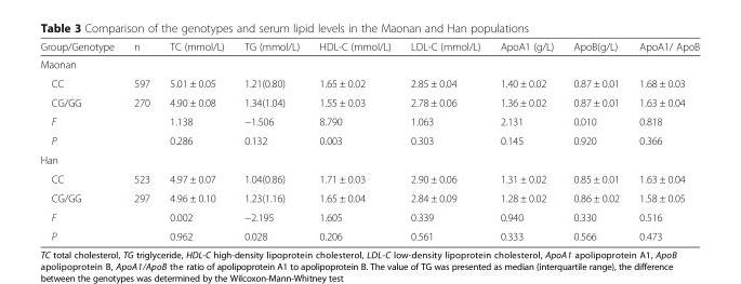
<table><thead><tr><td>Group/Genotype</td><td>n</td><td>TC (mmol/L)</td><td>TG (mmol/L)</td><td>HDL-C (mmol/L)</td><td>LDL-C (mmol/L)</td><td>ApoA1 (g/L)</td><td>ApoB(g/L)</td><td>ApoA1/ ApoB</td></tr></thead><tbody><tr><td colspan="9">Maonan</td></tr><tr><td>CC</td><td>597</td><td>5.01 ± 0.05</td><td>1.21(0.80)</td><td>1.65 ± 0.02</td><td>2.85 ± 0.04</td><td>1.40 ± 0.02</td><td>0.87 ± 0.01</td><td>1.68 ± 0.03</td></tr><tr><td>CG/GG</td><td>270</td><td>4.90 ± 0.08</td><td>1.34(1.04)</td><td>1.55 ± 0.03</td><td>2.78 ± 0.06</td><td>1.36 ± 0.02</td><td>0.87 ± 0.01</td><td>1.63 ± 0.04</td></tr><tr><td>F</td><td></td><td>1.138</td><td>−1.506</td><td>8.790</td><td>1.063</td><td>2.131</td><td>0.010</td><td>0.818</td></tr><tr><td>P</td><td></td><td>0.286</td><td>0.132</td><td>0.003</td><td>0.303</td><td>0.145</td><td>0.920</td><td>0.366</td></tr><tr><td colspan="9">Han</td></tr><tr><td>CC</td><td>523</td><td>4.97 ± 0.07</td><td>1.04(0.86)</td><td>1.71 ± 0.03</td><td>2.90 ± 0.06</td><td>1.31 ± 0.02</td><td>0.85 ± 0.01</td><td>1.63 ± 0.04</td></tr><tr><td>CG/GG</td><td>297</td><td>4.96 ± 0.10</td><td>1.23(1.16)</td><td>1.65 ± 0.04</td><td>2.84 ± 0.09</td><td>1.28 ± 0.02</td><td>0.86 ± 0.02</td><td>1.58 ± 0.05</td></tr><tr><td>F</td><td></td><td>0.002</td><td>−2.195</td><td>1.605</td><td>0.339</td><td>0.940</td><td>0.330</td><td>0.516</td></tr><tr><td>P</td><td></td><td>0.962</td><td>0.028</td><td>0.206</td><td>0.561</td><td>0.333</td><td>0.566</td><td>0.473</td></tr></tbody></table>